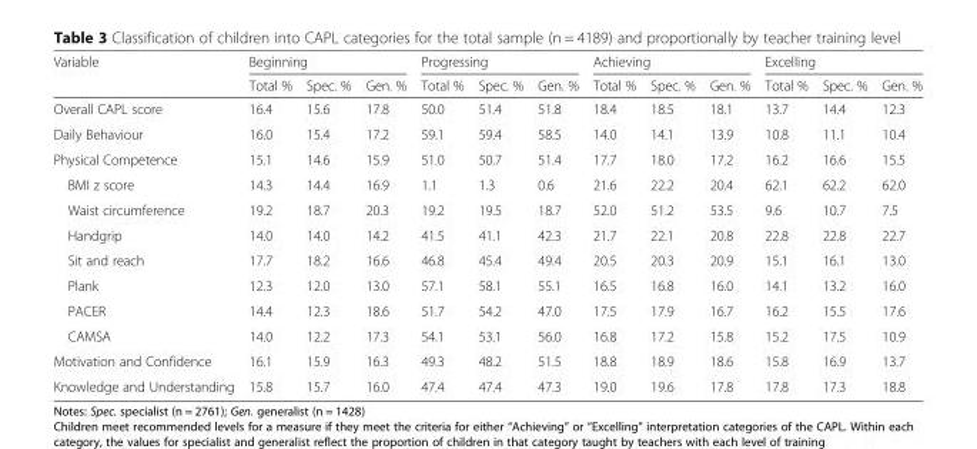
<table><thead><tr><td rowspan="2">Variable</td><td colspan="3">Beginning</td><td colspan="3">Progressing</td><td colspan="3">Achieving</td><td colspan="3">Excelling</td></tr><tr><td>Total %</td><td>Spec. %</td><td>Gen. %</td><td>Total %</td><td>Spec. %</td><td>Gen. %</td><td>Total %</td><td>Spec. %</td><td>Gen. %</td><td>Total %</td><td>Spec. %</td><td>Gen. %</td></tr></thead><tbody><tr><td>Overall CAPL score</td><td>16.4</td><td>15.6</td><td>17.8</td><td>50.0</td><td>51.4</td><td>51.8</td><td>18.4</td><td>18.5</td><td>18.1</td><td>13.7</td><td>14.4</td><td>12.3</td></tr><tr><td>Daily Behaviour</td><td>16.0</td><td>15.4</td><td>17.2</td><td>59.1</td><td>59.4</td><td>58.5</td><td>14.0</td><td>14.1</td><td>13.9</td><td>10.8</td><td>11.1</td><td>10.4</td></tr><tr><td>Physical Competence</td><td>15.1</td><td>14.6</td><td>15.9</td><td>51.0</td><td>50.7</td><td>51.4</td><td>17.7</td><td>18.0</td><td>17.2</td><td>16.2</td><td>16.6</td><td>15.5</td></tr><tr><td>BMI z score</td><td>14.3</td><td>14.4</td><td>16.9</td><td>1.1</td><td>1.3</td><td>0.6</td><td>21.6</td><td>22.2</td><td>20.4</td><td>62.1</td><td>62.2</td><td>62.0</td></tr><tr><td>Waist circumference</td><td>19.2</td><td>18.7</td><td>20.3</td><td>19.2</td><td>19.5</td><td>18.7</td><td>52.0</td><td>51.2</td><td>53.5</td><td>9.6</td><td>10.7</td><td>7.5</td></tr><tr><td>Handgrip</td><td>14.0</td><td>14.0</td><td>14.2</td><td>41.5</td><td>41.1</td><td>42.3</td><td>21.7</td><td>22.1</td><td>20.8</td><td>22.8</td><td>22.8</td><td>22.7</td></tr><tr><td>Sit and reach</td><td>17.7</td><td>18.2</td><td>16.6</td><td>46.8</td><td>45.4</td><td>49.4</td><td>20.5</td><td>20.3</td><td>20.9</td><td>15.1</td><td>16.1</td><td>13.0</td></tr><tr><td>Plank</td><td>12.3</td><td>12.0</td><td>13.0</td><td>57.1</td><td>58.1</td><td>55.1</td><td>16.5</td><td>16.8</td><td>16.0</td><td>14.1</td><td>13.2</td><td>16.0</td></tr><tr><td>PACER</td><td>14.4</td><td>12.3</td><td>18.6</td><td>51.7</td><td>54.2</td><td>47.0</td><td>17.5</td><td>17.9</td><td>16.7</td><td>16.2</td><td>15.5</td><td>17.6</td></tr><tr><td>CAMSA</td><td>14.0</td><td>12.2</td><td>17.3</td><td>54.1</td><td>53.1</td><td>56.0</td><td>16.8</td><td>17.2</td><td>15.8</td><td>15.2</td><td>17.5</td><td>10.9</td></tr><tr><td>Motivation and Confidence</td><td>16.1</td><td>15.9</td><td>16.3</td><td>49.3</td><td>48.2</td><td>51.5</td><td>18.8</td><td>18.9</td><td>18.6</td><td>15.8</td><td>16.9</td><td>13.7</td></tr><tr><td>Knowledge and Understanding</td><td>15.8</td><td>15.7</td><td>16.0</td><td>47.4</td><td>47.4</td><td>47.3</td><td>19.0</td><td>19.6</td><td>17.8</td><td>17.8</td><td>17.3</td><td>18.8</td></tr></tbody></table>